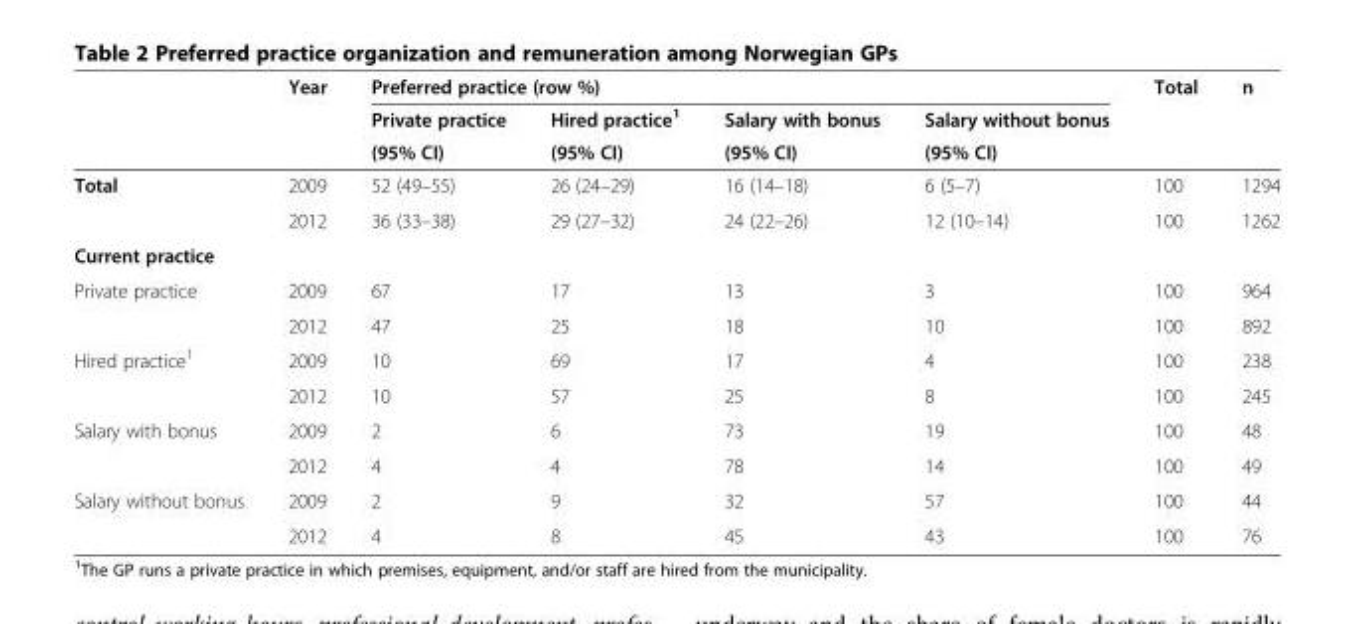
<table><thead><tr><td rowspan="3"></td><td rowspan="3">Year</td><td colspan="4">Preferred practice (row %)</td><td rowspan="3">Total</td><td rowspan="3">n</td></tr><tr><td rowspan="2">Private practice (95% CI)</td><td rowspan="2">Hired practice1 (95% CI)</td><td rowspan="2">Salary with bonus (95% CI)</td><td rowspan="2">Salary without bonus (95% CI)</td></tr><tr></tr></thead><tbody><tr><td rowspan="2">Total</td><td>2009</td><td>52 (49–55)</td><td>26 (24–29)</td><td>16 (14–18)</td><td>6 (5–7)</td><td>100</td><td>1294</td></tr><tr><td>2012</td><td>36 (33–38)</td><td>29 (27–32)</td><td>24 (22–26)</td><td>12 (10–14)</td><td>100</td><td>1262</td></tr><tr><td colspan="8">Current practice</td></tr><tr><td rowspan="2">Private practice</td><td>2009</td><td>67</td><td>17</td><td>13</td><td>3</td><td>100</td><td>964</td></tr><tr><td>2012</td><td>47</td><td>25</td><td>18</td><td>10</td><td>100</td><td>892</td></tr><tr><td rowspan="2">Hired practice1</td><td>2009</td><td>10</td><td>69</td><td>17</td><td>4</td><td>100</td><td>238</td></tr><tr><td>2012</td><td>10</td><td>57</td><td>25</td><td>8</td><td>100</td><td>245</td></tr><tr><td rowspan="2">Salary with bonus</td><td>2009</td><td>2</td><td>6</td><td>73</td><td>19</td><td>100</td><td>48</td></tr><tr><td>2012</td><td>4</td><td>4</td><td>78</td><td>14</td><td>100</td><td>49</td></tr><tr><td rowspan="2">Salary without bonus</td><td>2009</td><td>2</td><td>9</td><td>32</td><td>57</td><td>100</td><td>44</td></tr><tr><td>2012</td><td>4</td><td>8</td><td>45</td><td>43</td><td>100</td><td>76</td></tr></tbody></table>